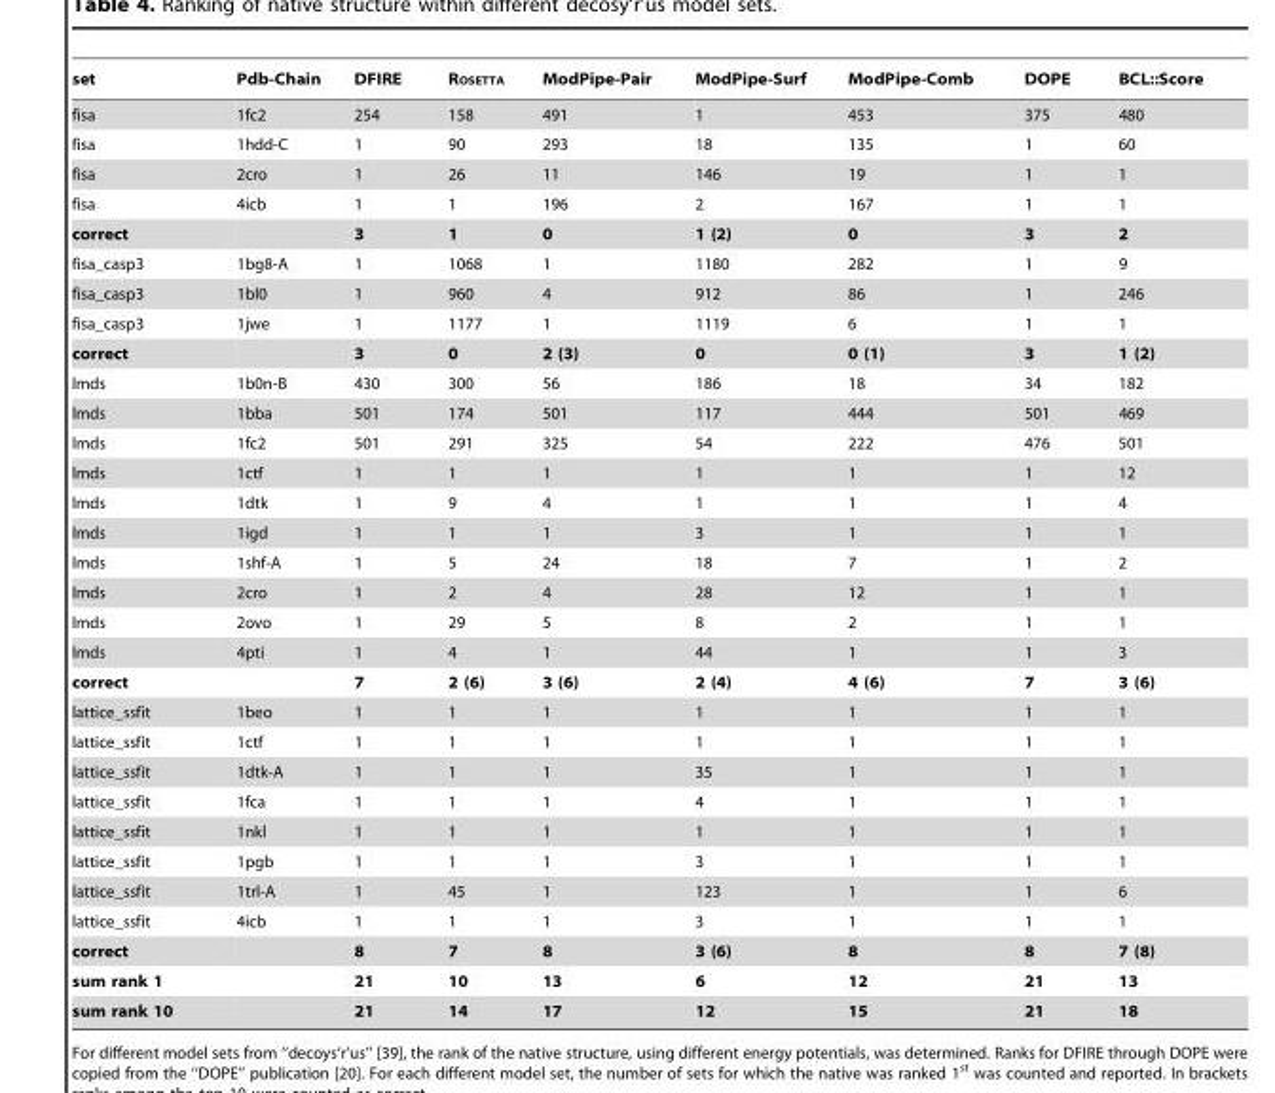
<table><thead><tr><td>set</td><td>Pdb-Chain</td><td>DFIRE</td><td>ROSETTA</td><td>ModPipe-Pair</td><td>ModPipe-Surf</td><td>ModPipe-Comb</td><td>DOPE</td><td>BCL::Score</td></tr></thead><tbody><tr><td>fisa</td><td>1fc2</td><td>254</td><td>158</td><td>491</td><td>1</td><td>453</td><td>375</td><td>480</td></tr><tr><td>fisa</td><td>1hdd-C</td><td>1</td><td>90</td><td>293</td><td>18</td><td>135</td><td>1</td><td>60</td></tr><tr><td>fisa</td><td>2cro</td><td>1</td><td>26</td><td>11</td><td>146</td><td>19</td><td>1</td><td>1</td></tr><tr><td>fisa</td><td>4icb</td><td>1</td><td>1</td><td>196</td><td>2</td><td>167</td><td>1</td><td>1</td></tr><tr><td>correct</td><td></td><td>3</td><td>1</td><td>0</td><td>1 (2)</td><td>0</td><td>3</td><td>2</td></tr><tr><td>fisa_casp3</td><td>1bg8-A</td><td>1</td><td>1068</td><td>1</td><td>1180</td><td>282</td><td>1</td><td>9</td></tr><tr><td>fisa_casp3</td><td>1bl0</td><td>1</td><td>960</td><td>4</td><td>912</td><td>86</td><td>1</td><td>246</td></tr><tr><td>fisa_casp3</td><td>1jwe</td><td>1</td><td>1177</td><td>1</td><td>1119</td><td>6</td><td>1</td><td>1</td></tr><tr><td>correct</td><td></td><td>3</td><td>0</td><td>2 (3)</td><td>0</td><td>0 (1)</td><td>3</td><td>1 (2)</td></tr><tr><td>lmds</td><td>1b0n-B</td><td>430</td><td>300</td><td>56</td><td>186</td><td>18</td><td>34</td><td>182</td></tr><tr><td>lmds</td><td>1bba</td><td>501</td><td>174</td><td>501</td><td>117</td><td>444</td><td>501</td><td>469</td></tr><tr><td>lmds</td><td>1fc2</td><td>501</td><td>291</td><td>325</td><td>54</td><td>222</td><td>476</td><td>501</td></tr><tr><td>lmds</td><td>1ctf</td><td>1</td><td>1</td><td>1</td><td>1</td><td>1</td><td>1</td><td>12</td></tr><tr><td>lmds</td><td>1dtk</td><td>1</td><td>9</td><td>4</td><td>1</td><td>1</td><td>1</td><td>4</td></tr><tr><td>lmds</td><td>1igd</td><td>1</td><td>1</td><td>1</td><td>3</td><td>1</td><td>1</td><td>1</td></tr><tr><td>lmds</td><td>1shf-A</td><td>1</td><td>5</td><td>24</td><td>18</td><td>7</td><td>1</td><td>2</td></tr><tr><td>lmds</td><td>2cro</td><td>1</td><td>2</td><td>4</td><td>28</td><td>12</td><td>1</td><td>1</td></tr><tr><td>lmds</td><td>2ovo</td><td>1</td><td>29</td><td>5</td><td>8</td><td>2</td><td>1</td><td>1</td></tr><tr><td>lmds</td><td>4pti</td><td>1</td><td>4</td><td>1</td><td>44</td><td>1</td><td>1</td><td>3</td></tr><tr><td>correct</td><td></td><td>7</td><td>2 (6)</td><td>3 (6)</td><td>2 (4)</td><td>4 (6)</td><td>7</td><td>3 (6)</td></tr><tr><td>lattice_ssfit</td><td>1beo</td><td>1</td><td>1</td><td>1</td><td>1</td><td>1</td><td>1</td><td>1</td></tr><tr><td>lattice_ssfit</td><td>1ctf</td><td>1</td><td>1</td><td>1</td><td>1</td><td>1</td><td>1</td><td>1</td></tr><tr><td>lattice_ssfit</td><td>1dtk-A</td><td>1</td><td>1</td><td>1</td><td>35</td><td>1</td><td>1</td><td>1</td></tr><tr><td>lattice_ssfit</td><td>1fca</td><td>1</td><td>1</td><td>1</td><td>4</td><td>1</td><td>1</td><td>1</td></tr><tr><td>lattice_ssfit</td><td>1nkl</td><td>1</td><td>1</td><td>1</td><td>1</td><td>1</td><td>1</td><td>1</td></tr><tr><td>lattice_ssfit</td><td>1pgb</td><td>1</td><td>1</td><td>1</td><td>3</td><td>1</td><td>1</td><td>1</td></tr><tr><td>lattice_ssfit</td><td>1trl-A</td><td>1</td><td>45</td><td>1</td><td>123</td><td>1</td><td>1</td><td>6</td></tr><tr><td>lattice_ssfit</td><td>4icb</td><td>1</td><td>1</td><td>1</td><td>3</td><td>1</td><td>1</td><td>1</td></tr><tr><td>correct</td><td></td><td>8</td><td>7</td><td>8</td><td>3 (6)</td><td>8</td><td>8</td><td>7 (8)</td></tr><tr><td>sum rank 1</td><td></td><td>21</td><td>10</td><td>13</td><td>6</td><td>12</td><td>21</td><td>13</td></tr><tr><td>sum rank 10</td><td></td><td>21</td><td>14</td><td>17</td><td>12</td><td>15</td><td>21</td><td>18</td></tr></tbody></table>